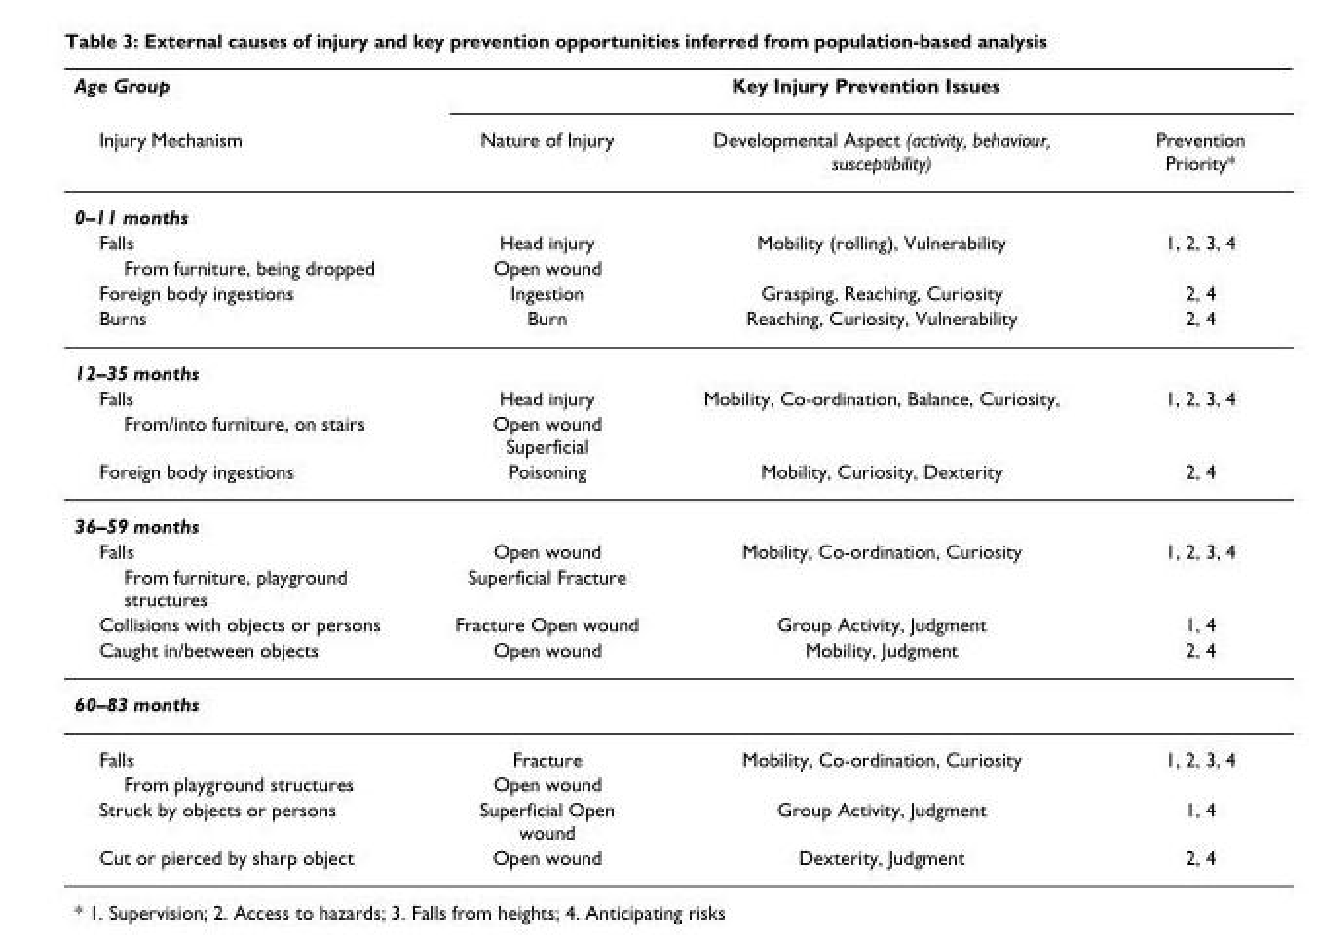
<table><thead><tr><td rowspan="2">Age Group Injury Mechanism</td><td colspan="3">Key Injury Prevention Issues</td></tr><tr><td>Nature of Injury</td><td>Developmental Aspect (activity, behaviour, susceptibility)</td><td>Prevention Priority*</td></tr></thead><tbody><tr><td colspan="4">0–11 months</td></tr><tr><td>Falls</td><td>Head injury</td><td>Mobility (rolling), Vulnerability</td><td>1, 2, 3, 4</td></tr><tr><td>From furniture, being dropped</td><td>Open wound</td><td></td><td></td></tr><tr><td>Foreign body ingestions</td><td>Ingestion</td><td>Grasping, Reaching, Curiosity</td><td>2, 4</td></tr><tr><td>Burns</td><td>Burn</td><td>Reaching, Curiosity, Vulnerability</td><td>2, 4</td></tr><tr><td colspan="4">12–35 months</td></tr><tr><td>Falls</td><td>Head injury</td><td>Mobility, Co-ordination, Balance, Curiosity,</td><td>1, 2, 3, 4</td></tr><tr><td>From/into furniture, on stairs</td><td>Open wound Superficial</td><td></td><td></td></tr><tr><td>Foreign body ingestions</td><td>Poisoning</td><td>Mobility, Curiosity, Dexterity</td><td>2, 4</td></tr><tr><td colspan="4">36–59 months</td></tr><tr><td>Falls</td><td>Open wound</td><td>Mobility, Co-ordination, Curiosity</td><td>1, 2, 3, 4</td></tr><tr><td>From furniture, playground structures</td><td>Superficial Fracture</td><td></td><td></td></tr><tr><td>Collisions with objects or persons</td><td>Fracture Open wound</td><td>Group Activity, Judgment</td><td>1, 4</td></tr><tr><td>Caught in/between objects</td><td>Open wound</td><td>Mobility, Judgment</td><td>2, 4</td></tr><tr><td colspan="4">60–83 months</td></tr><tr><td>Falls</td><td>Fracture</td><td>Mobility, Co-ordination, Curiosity</td><td>1, 2, 3, 4</td></tr><tr><td>From playground structures</td><td>Open wound</td><td></td><td></td></tr><tr><td>Struck by objects or persons</td><td>Superficial Open wound</td><td>Group Activity, Judgment</td><td>1, 4</td></tr><tr><td>Cut or pierced by sharp object</td><td>Open wound</td><td>Dexterity, Judgment</td><td>2, 4</td></tr></tbody></table>